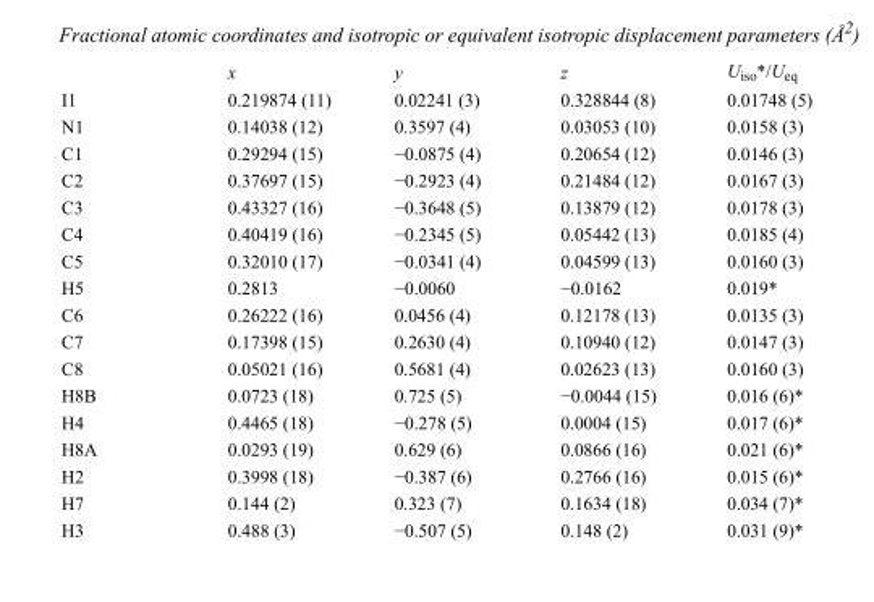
<table><thead><tr><td></td><td>x</td><td>y</td><td>z</td><td>U<sub>iso</sub>*/U<sub>eq</sub></td></tr></thead><tbody><tr><td>I1</td><td>0.219874 (11)</td><td>0.02241 (3)</td><td>0.328844 (8)</td><td>0.01748 (5)</td></tr><tr><td>N1</td><td>0.14038 (12)</td><td>0.3597 (4)</td><td>0.03053 (10)</td><td>0.0158 (3)</td></tr><tr><td>C1</td><td>0.29294 (15)</td><td>−0.0875 (4)</td><td>0.20654 (12)</td><td>0.0146 (3)</td></tr><tr><td>C2</td><td>0.37697 (15)</td><td>−0.2923 (4)</td><td>0.21484 (12)</td><td>0.0167 (3)</td></tr><tr><td>C3</td><td>0.43327 (16)</td><td>−0.3648 (5)</td><td>0.13879 (12)</td><td>0.0178 (3)</td></tr><tr><td>C4</td><td>0.40419 (16)</td><td>−0.2345 (5)</td><td>0.05442 (13)</td><td>0.0185 (4)</td></tr><tr><td>C5</td><td>0.32010 (17)</td><td>−0.0341 (4)</td><td>0.04599 (13)</td><td>0.0160 (3)</td></tr><tr><td>H5</td><td>0.2813</td><td>−0.0060</td><td>−0.0162</td><td>0.019*</td></tr><tr><td>C6</td><td>0.26222 (16)</td><td>0.0456 (4)</td><td>0.12178 (13)</td><td>0.0135 (3)</td></tr><tr><td>C7</td><td>0.17398 (15)</td><td>0.2630 (4)</td><td>0.10940 (12)</td><td>0.0147 (3)</td></tr><tr><td>C8</td><td>0.05021 (16)</td><td>0.5681 (4)</td><td>0.02623 (13)</td><td>0.0160 (3)</td></tr><tr><td>H8B</td><td>0.0723 (18)</td><td>0.725 (5)</td><td>−0.0044 (15)</td><td>0.016 (6)*</td></tr><tr><td>H4</td><td>0.4465 (18)</td><td>−0.278 (5)</td><td>0.0004 (15)</td><td>0.017 (6)*</td></tr><tr><td>H8A</td><td>0.0293 (19)</td><td>0.629 (6)</td><td>0.0866 (16)</td><td>0.021 (6)*</td></tr><tr><td>H2</td><td>0.3998 (18)</td><td>−0.387 (6)</td><td>0.2766 (16)</td><td>0.015 (6)*</td></tr><tr><td>H7</td><td>0.144 (2)</td><td>0.323 (7)</td><td>0.1634 (18)</td><td>0.034 (7)*</td></tr><tr><td>H3</td><td>0.488 (3)</td><td>−0.507 (5)</td><td>0.148 (2)</td><td>0.031 (9)*</td></tr></tbody></table>